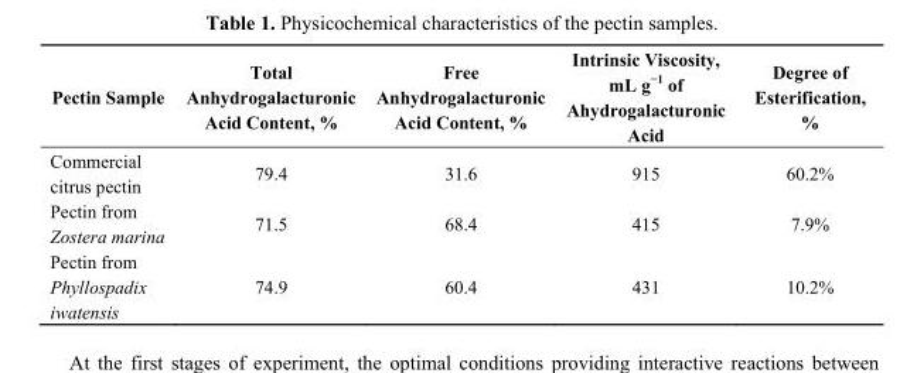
<table><thead><tr><td>Pectin Sample</td><td>Total Anhydrogalacturonic Acid Content, %</td><td>Free Anhydrogalacturonic Acid Content, %</td><td>Intrinsic Viscosity, mL g<sup>−1</sup> of Ahydrogalacturonic Acid</td><td>Degree of Esterification, %</td></tr></thead><tbody><tr><td>Commercial citrus pectin</td><td>79.4</td><td>31.6</td><td>915</td><td>60.2%</td></tr><tr><td>Pectin from Zostera marina</td><td>71.5</td><td>68.4</td><td>415</td><td>7.9%</td></tr><tr><td>Pectin from Phyllospadix iwatensis</td><td>74.9</td><td>60.4</td><td>431</td><td>10.2%</td></tr></tbody></table>